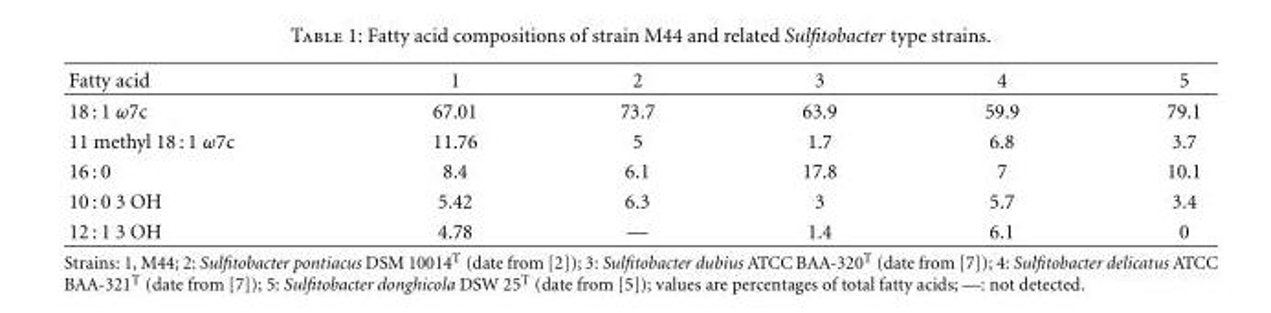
<table><thead><tr><td>Fatty acid</td><td>1</td><td>2</td><td>3</td><td>4</td><td>5</td></tr></thead><tbody><tr><td>18 : 1 ω7c</td><td>67.01</td><td>73.7</td><td>63.9</td><td>59.9</td><td>79.1</td></tr><tr><td>11 methyl 18 : 1 ω7c</td><td>11.76</td><td>5</td><td>1.7</td><td>6.8</td><td>3.7</td></tr><tr><td>16 : 0</td><td>8.4</td><td>6.1</td><td>17.8</td><td>7</td><td>10.1</td></tr><tr><td>10 : 0 3 OH</td><td>5.42</td><td>6.3</td><td>3</td><td>5.7</td><td>3.4</td></tr><tr><td>12 : 1 3 OH</td><td>4.78</td><td>—</td><td>1.4</td><td>6.1</td><td>0</td></tr></tbody></table>